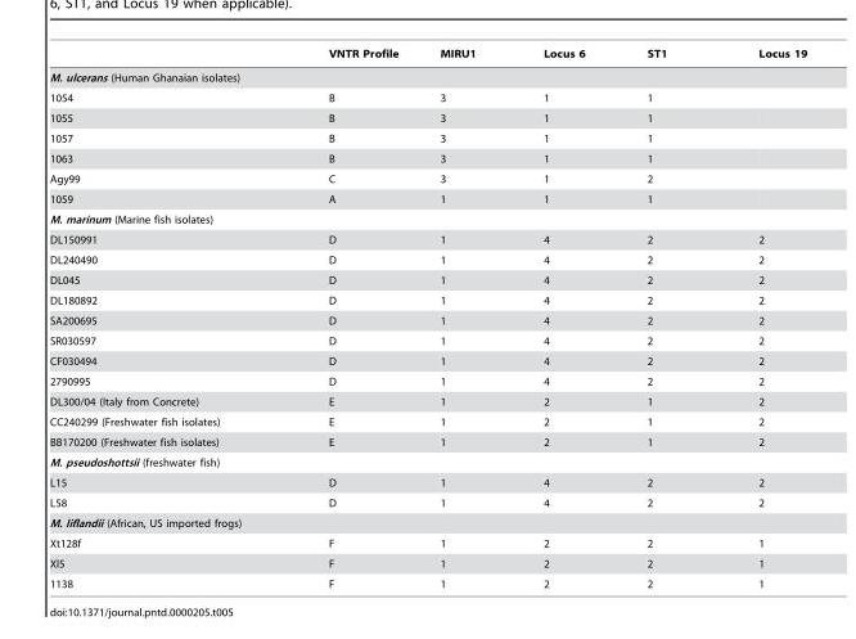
<table><thead><tr><td></td><td>VNTR Profile</td><td>MIRU1</td><td>Locus 6</td><td>ST1</td><td>Locus 19</td></tr></thead><tbody><tr><td colspan="6">M. ulcerans (Human Ghanaian isolates)</td></tr><tr><td>1054</td><td>B</td><td>3</td><td>1</td><td>1</td><td></td></tr><tr><td>1055</td><td>B</td><td>3</td><td>1</td><td>1</td><td></td></tr><tr><td>1057</td><td>B</td><td>3</td><td>1</td><td>1</td><td></td></tr><tr><td>1063</td><td>B</td><td>3</td><td>1</td><td>1</td><td></td></tr><tr><td>Agy99</td><td>C</td><td>3</td><td>1</td><td>2</td><td></td></tr><tr><td>1059</td><td>A</td><td>1</td><td>1</td><td>1</td><td></td></tr><tr><td colspan="6">M. marinum (Marine fish isolates)</td></tr><tr><td>DL150991</td><td>D</td><td>1</td><td>4</td><td>2</td><td>2</td></tr><tr><td>DL240490</td><td>D</td><td>1</td><td>4</td><td>2</td><td>2</td></tr><tr><td>DL045</td><td>D</td><td>1</td><td>4</td><td>2</td><td>2</td></tr><tr><td>DL180892</td><td>D</td><td>1</td><td>4</td><td>2</td><td>2</td></tr><tr><td>SA200695</td><td>D</td><td>1</td><td>4</td><td>2</td><td>2</td></tr><tr><td>SR030597</td><td>D</td><td>1</td><td>4</td><td>2</td><td>2</td></tr><tr><td>CF030494</td><td>D</td><td>1</td><td>4</td><td>2</td><td>2</td></tr><tr><td>2790995</td><td>D</td><td>1</td><td>4</td><td>2</td><td>2</td></tr><tr><td>DL300/04 (Italy from Concrete)</td><td>E</td><td>1</td><td>2</td><td>1</td><td>2</td></tr><tr><td>CC240299 (Freshwater fish isolates)</td><td>E</td><td>1</td><td>2</td><td>1</td><td>2</td></tr><tr><td>BB170200 (Freshwater fish isolates)</td><td>E</td><td>1</td><td>2</td><td>1</td><td>2</td></tr><tr><td colspan="6">M. pseudoshottsii (freshwater fish)</td></tr><tr><td>L15</td><td>D</td><td>1</td><td>4</td><td>2</td><td>2</td></tr><tr><td>L58</td><td>D</td><td>1</td><td>4</td><td>2</td><td>2</td></tr><tr><td colspan="6">M. liflandii (African, US imported frogs)</td></tr><tr><td>Xt128f</td><td>F</td><td>1</td><td>2</td><td>2</td><td>1</td></tr><tr><td>Xl5</td><td>F</td><td>1</td><td>2</td><td>2</td><td>1</td></tr><tr><td>1138</td><td>F</td><td>1</td><td>2</td><td>2</td><td>1</td></tr></tbody></table>